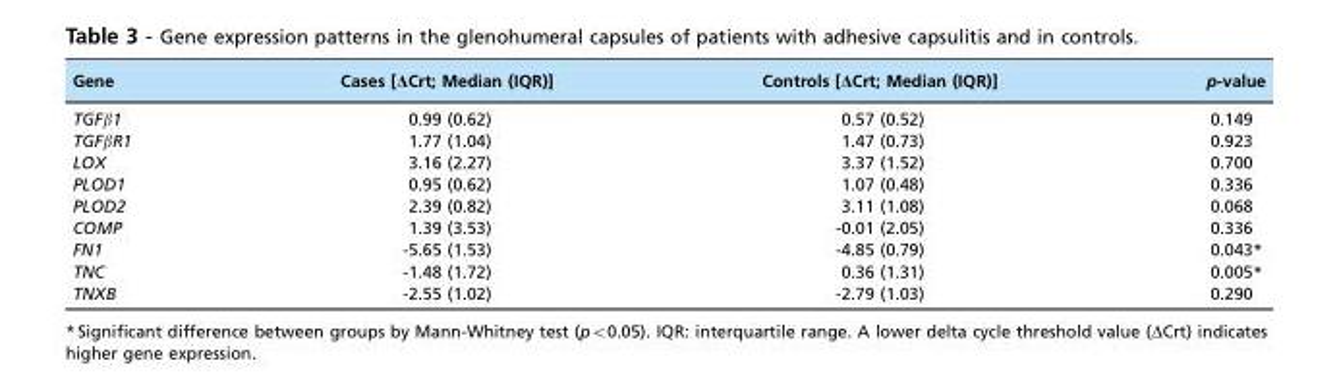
<table><thead><tr><td>Gene</td><td>Cases [ΔCrt; Median (IQR)]</td><td>Controls [ΔCrt; Median (IQR)]</td><td>p-value</td></tr></thead><tbody><tr><td>TGFβ1</td><td>0.99 (0.62)</td><td>0.57 (0.52)</td><td>0.149</td></tr><tr><td>TGFβR1</td><td>1.77 (1.04)</td><td>1.47 (0.73)</td><td>0.923</td></tr><tr><td>LOX</td><td>3.16 (2.27)</td><td>3.37 (1.52)</td><td>0.700</td></tr><tr><td>PLOD1</td><td>0.95 (0.62)</td><td>1.07 (0.48)</td><td>0.336</td></tr><tr><td>PLOD2</td><td>2.39 (0.82)</td><td>3.11 (1.08)</td><td>0.068</td></tr><tr><td>COMP</td><td>1.39 (3.53)</td><td>-0.01 (2.05)</td><td>0.336</td></tr><tr><td>FN1</td><td>-5.65 (1.53)</td><td>-4.85 (0.79)</td><td>0.043*</td></tr><tr><td>TNC</td><td>-1.48 (1.72)</td><td>0.36 (1.31)</td><td>0.005*</td></tr><tr><td>TNXB</td><td>-2.55 (1.02)</td><td>-2.79 (1.03)</td><td>0.290</td></tr></tbody></table>